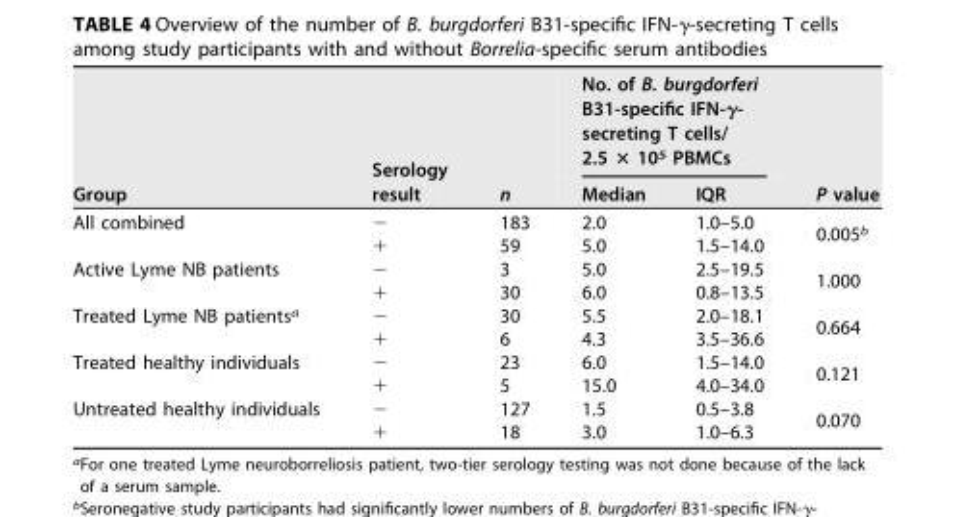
<table><thead><tr><td rowspan="2">Group</td><td rowspan="2">Serology result</td><td rowspan="2">n</td><td colspan="2">No. of B. burgdorferi B31-specific IFN-γ- secreting T cells/ 2.5 × 10<sup>5</sup> PBMCs</td><td rowspan="2">P value</td></tr><tr><td>Median</td><td>IQR</td></tr></thead><tbody><tr><td rowspan="2">All combined</td><td>−</td><td>183</td><td>2.0</td><td>1.0–5.0</td><td rowspan="2">0.005<sup>b</sup></td></tr><tr><td>+</td><td>59</td><td>5.0</td><td>1.5–14.0</td></tr><tr><td rowspan="2">Active Lyme NB patients</td><td>−</td><td>3</td><td>5.0</td><td>2.5–19.5</td><td rowspan="2">1.000</td></tr><tr><td>+</td><td>30</td><td>6.0</td><td>0.8–13.5</td></tr><tr><td rowspan="2">Treated Lyme NB patients<sup>a</sup></td><td>−</td><td>30</td><td>5.5</td><td>2.0–18.1</td><td rowspan="2">0.664</td></tr><tr><td>+</td><td>6</td><td>4.3</td><td>3.5–36.6</td></tr><tr><td rowspan="2">Treated healthy individuals</td><td>−</td><td>23</td><td>6.0</td><td>1.5–14.0</td><td rowspan="2">0.121</td></tr><tr><td>+</td><td>5</td><td>15.0</td><td>4.0–34.0</td></tr><tr><td rowspan="2">Untreated healthy individuals</td><td>−</td><td>127</td><td>1.5</td><td>0.5–3.8</td><td rowspan="2">0.070</td></tr><tr><td>+</td><td>18</td><td>3.0</td><td>1.0–6.3</td></tr></tbody></table>